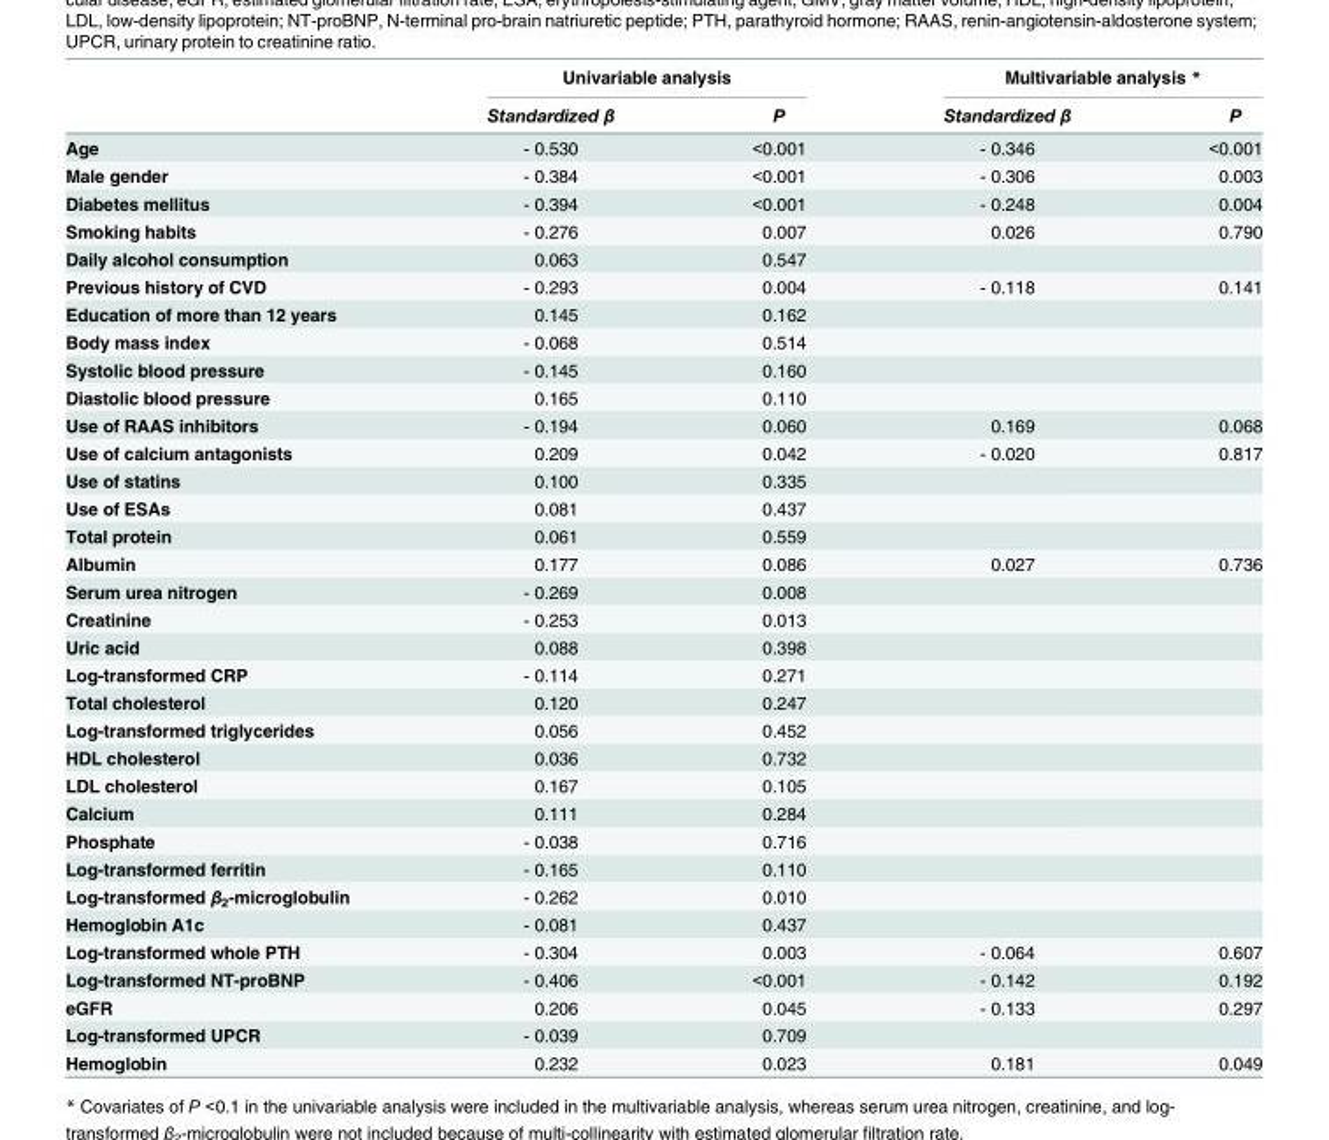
<table><thead><tr><td rowspan="2"></td><td colspan="2">Univariable analysis</td><td colspan="2">Multivariable analysis *</td></tr><tr><td>Standardized β</td><td>P</td><td>Standardized β</td><td>P</td></tr></thead><tbody><tr><td>Age</td><td>- 0.530</td><td>&lt;0.001</td><td>- 0.346</td><td>&lt;0.001</td></tr><tr><td>Male gender</td><td>- 0.384</td><td>&lt;0.001</td><td>- 0.306</td><td>0.003</td></tr><tr><td>Diabetes mellitus</td><td>- 0.394</td><td>&lt;0.001</td><td>- 0.248</td><td>0.004</td></tr><tr><td>Smoking habits</td><td>- 0.276</td><td>0.007</td><td>0.026</td><td>0.790</td></tr><tr><td>Daily alcohol consumption</td><td>0.063</td><td>0.547</td><td></td><td></td></tr><tr><td>Previous history of CVD</td><td>- 0.293</td><td>0.004</td><td>- 0.118</td><td>0.141</td></tr><tr><td>Education of more than 12 years</td><td>0.145</td><td>0.162</td><td></td><td></td></tr><tr><td>Body mass index</td><td>- 0.068</td><td>0.514</td><td></td><td></td></tr><tr><td>Systolic blood pressure</td><td>- 0.145</td><td>0.160</td><td></td><td></td></tr><tr><td>Diastolic blood pressure</td><td>0.165</td><td>0.110</td><td></td><td></td></tr><tr><td>Use of RAAS inhibitors</td><td>- 0.194</td><td>0.060</td><td>0.169</td><td>0.068</td></tr><tr><td>Use of calcium antagonists</td><td>0.209</td><td>0.042</td><td>- 0.020</td><td>0.817</td></tr><tr><td>Use of statins</td><td>0.100</td><td>0.335</td><td></td><td></td></tr><tr><td>Use of ESAs</td><td>0.081</td><td>0.437</td><td></td><td></td></tr><tr><td>Total protein</td><td>0.061</td><td>0.559</td><td></td><td></td></tr><tr><td>Albumin</td><td>0.177</td><td>0.086</td><td>0.027</td><td>0.736</td></tr><tr><td>Serum urea nitrogen</td><td>- 0.269</td><td>0.008</td><td></td><td></td></tr><tr><td>Creatinine</td><td>- 0.253</td><td>0.013</td><td></td><td></td></tr><tr><td>Uric acid</td><td>0.088</td><td>0.398</td><td></td><td></td></tr><tr><td>Log-transformed CRP</td><td>- 0.114</td><td>0.271</td><td></td><td></td></tr><tr><td>Total cholesterol</td><td>0.120</td><td>0.247</td><td></td><td></td></tr><tr><td>Log-transformed triglycerides</td><td>0.056</td><td>0.452</td><td></td><td></td></tr><tr><td>HDL cholesterol</td><td>0.036</td><td>0.732</td><td></td><td></td></tr><tr><td>LDL cholesterol</td><td>0.167</td><td>0.105</td><td></td><td></td></tr><tr><td>Calcium</td><td>0.111</td><td>0.284</td><td></td><td></td></tr><tr><td>Phosphate</td><td>- 0.038</td><td>0.716</td><td></td><td></td></tr><tr><td>Log-transformed ferritin</td><td>- 0.165</td><td>0.110</td><td></td><td></td></tr><tr><td>Log-transformed β<sub>2</sub>-microglobulin</td><td>- 0.262</td><td>0.010</td><td></td><td></td></tr><tr><td>Hemoglobin A1c</td><td>- 0.081</td><td>0.437</td><td></td><td></td></tr><tr><td>Log-transformed whole PTH</td><td>- 0.304</td><td>0.003</td><td>- 0.064</td><td>0.607</td></tr><tr><td>Log-transformed NT-proBNP</td><td>- 0.406</td><td>&lt;0.001</td><td>- 0.142</td><td>0.192</td></tr><tr><td>eGFR</td><td>0.206</td><td>0.045</td><td>- 0.133</td><td>0.297</td></tr><tr><td>Log-transformed UPCR</td><td>- 0.039</td><td>0.709</td><td></td><td></td></tr><tr><td>Hemoglobin</td><td>0.232</td><td>0.023</td><td>0.181</td><td>0.049</td></tr></tbody></table>